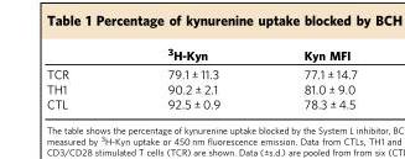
<table><thead><tr><td></td><td><sup>3</sup>H-Kyn</td><td>Kyn MFI</td></tr></thead><tbody><tr><td>TCR</td><td>79.1 ± 11.3</td><td>77.1 ± 14.7</td></tr><tr><td>TH1</td><td>90.2 ± 2.1</td><td>81.0 ± 9.0</td></tr><tr><td>CTL</td><td>92.5 ± 0.9</td><td>78.3 ± 4.5</td></tr></tbody></table>